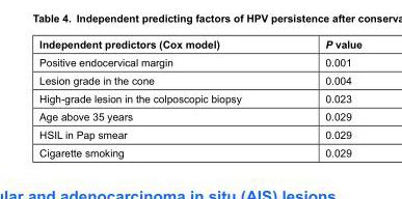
<table><thead><tr><td>Independent predictors (Cox model)</td><td>P value</td></tr></thead><tbody><tr><td>Positive endocervical margin</td><td>0.001</td></tr><tr><td>Lesion grade in the cone</td><td>0.004</td></tr><tr><td>High-grade lesion in the colposcopic biopsy</td><td>0.023</td></tr><tr><td>Age above 35 years</td><td>0.029</td></tr><tr><td>HSIL in Pap smear</td><td>0.029</td></tr><tr><td>Cigarette smoking</td><td>0.029</td></tr></tbody></table>